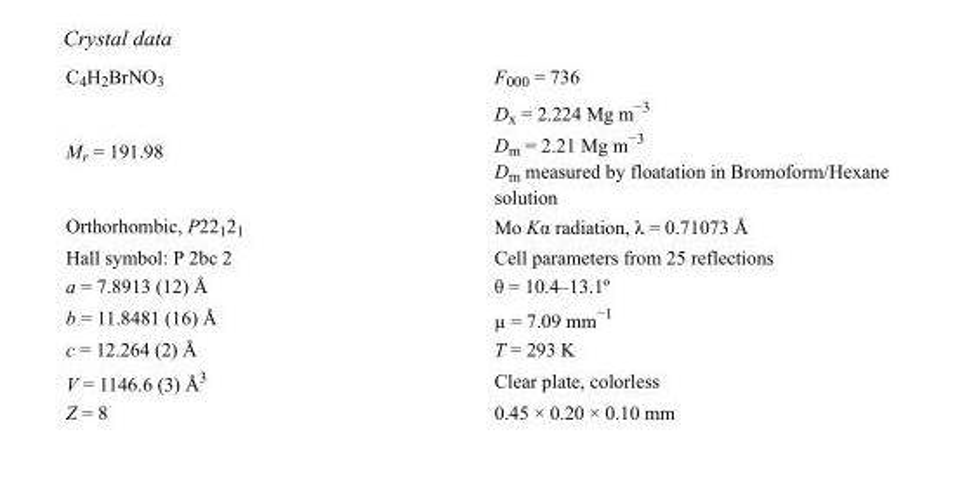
<table><tbody><tr><td>C<sub>4</sub>H<sub>2</sub>BrNO<sub>3</sub></td><td>F000 = 736</td></tr><tr><td>M<sub>r</sub> = 191.98</td><td>D<sub>x</sub> = 2.224 Mg m<sup>−3</sup> D<sub>m</sub> = 2.21 Mg m<sup>−3</sup> D<sub>m</sub> measured by floatation in Bromoform/Hexane solution</td></tr><tr><td>Orthorhombic, P22<sub>1</sub>2<sub>1</sub></td><td>Mo Kα radiation, λ = 0.71073 Å</td></tr><tr><td>Hall symbol: P 2bc 2</td><td>Cell parameters from 25 reflections</td></tr><tr><td>a = 7.8913 (12) Å</td><td>θ = 10.4–13.1º</td></tr><tr><td>b = 11.8481 (16) Å</td><td>µ = 7.09 mm<sup>−1</sup></td></tr><tr><td>c = 12.264 (2) Å</td><td>T = 293 K</td></tr><tr><td>V = 1146.6 (3) Å<sup>3</sup></td><td>Clear plate, colorless</td></tr><tr><td>Z = 8</td><td>0.45 × 0.20 × 0.10 mm</td></tr></tbody></table>